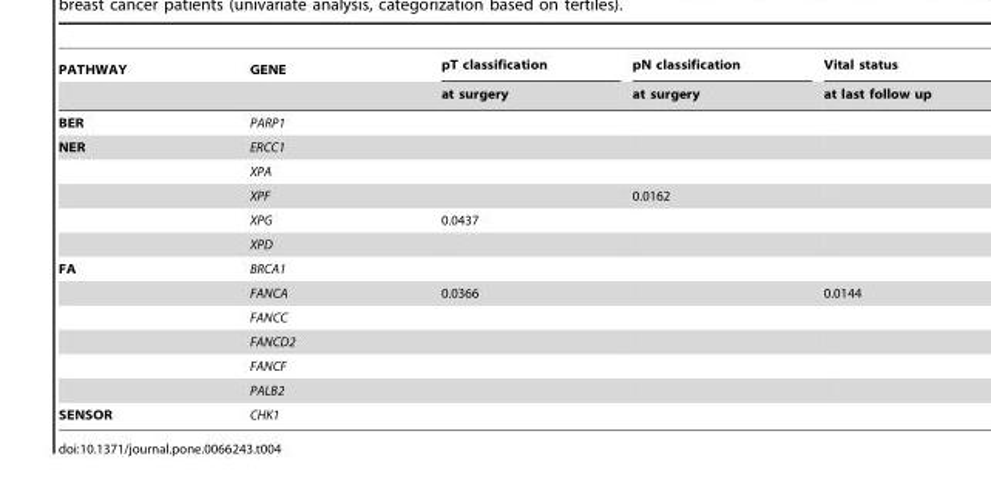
<table><thead><tr><td rowspan="2">PATHWAY</td><td rowspan="2">GENE</td><td rowspan="2">pT classification at surgery</td><td rowspan="2">pN classification at surgery</td><td rowspan="2">Vital status at last follow up</td></tr><tr></tr></thead><tbody><tr><td>BER</td><td>PARP1</td><td></td><td></td><td></td></tr><tr><td rowspan="5">NER</td><td>ERCC1</td><td></td><td></td><td></td></tr><tr><td>XPA</td><td></td><td></td><td></td></tr><tr><td>XPF</td><td></td><td>0.0162</td><td></td></tr><tr><td>XPG</td><td>0.0437</td><td></td><td></td></tr><tr><td>XPD</td><td></td><td></td><td></td></tr><tr><td rowspan="6">FA</td><td>BRCA1</td><td></td><td></td><td></td></tr><tr><td>FANCA</td><td>0.0366</td><td></td><td>0.0144</td></tr><tr><td>FANCC</td><td></td><td></td><td></td></tr><tr><td>FANCD2</td><td></td><td></td><td></td></tr><tr><td>FANCF</td><td></td><td></td><td></td></tr><tr><td>PALB2</td><td></td><td></td><td></td></tr><tr><td>SENSOR</td><td>CHK1</td><td></td><td></td><td></td></tr></tbody></table>